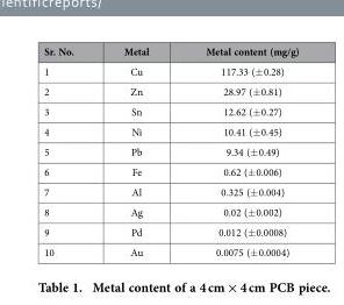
<table><thead><tr><td>Sr. No.</td><td>Metal</td><td>Metal content (mg/g)</td></tr></thead><tbody><tr><td>1</td><td>Cu</td><td>117.33 (± 0.28)</td></tr><tr><td>2</td><td>Zn</td><td>28.97 (± 0.81)</td></tr><tr><td>3</td><td>Sn</td><td>12.62 (± 0.27)</td></tr><tr><td>4</td><td>Ni</td><td>10.41 (± 0.45)</td></tr><tr><td>5</td><td>Pb</td><td>9.34 (± 0.49)</td></tr><tr><td>6</td><td>Fe</td><td>0.62 (± 0.006)</td></tr><tr><td>7</td><td>Al</td><td>0.325 (± 0.004)</td></tr><tr><td>8</td><td>Ag</td><td>0.02 (± 0.002)</td></tr><tr><td>9</td><td>Pd</td><td>0.012 (± 0.0008)</td></tr><tr><td>10</td><td>Au</td><td>0.0075 (± 0.0004)</td></tr></tbody></table>